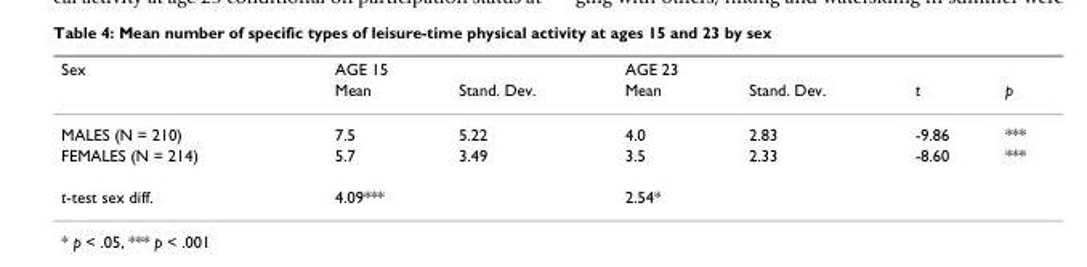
<table><thead><tr><td rowspan="2">Sex</td><td rowspan="2">AGE 15 Mean</td><td rowspan="2">Stand. Dev.</td><td rowspan="2">AGE 23 Mean</td><td rowspan="2">Stand. Dev.</td><td rowspan="2">t</td><td rowspan="2">p</td></tr><tr></tr></thead><tbody><tr><td>MALES (N = 210)</td><td>7.5</td><td>5.22</td><td>4.0</td><td>2.83</td><td>-9.86</td><td>***</td></tr><tr><td>FEMALES (N = 214)</td><td>5.7</td><td>3.49</td><td>3.5</td><td>2.33</td><td>-8.60</td><td>***</td></tr><tr><td>t-test sex diff.</td><td>4.09***</td><td></td><td>2.54*</td><td></td><td></td><td></td></tr></tbody></table>